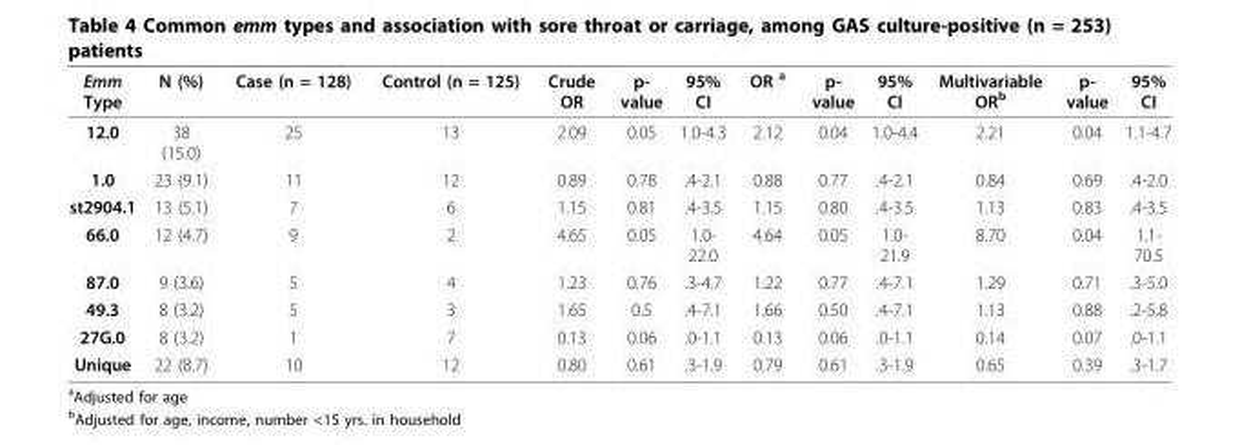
<table><thead><tr><td>Emm Type</td><td>N (%)</td><td>Case (n = 128)</td><td>Control (n = 125)</td><td>Crude OR</td><td>p- value</td><td>95% CI</td><td>OR <sup>a</sup></td><td>p- value</td><td>95% CI</td><td>Multivariable OR<sup>b</sup></td><td>p- value</td><td>95% CI</td></tr></thead><tbody><tr><td>12.0</td><td>38 (15.0)</td><td>25</td><td>13</td><td>2.09</td><td>0.05</td><td>1.0-4.3</td><td>2.12</td><td>0.04</td><td>1.0-4.4</td><td>2.21</td><td>0.04</td><td>1.1-4.7</td></tr><tr><td>1.0</td><td>23 (9.1)</td><td>11</td><td>12</td><td>0.89</td><td>0.78</td><td>.4-2.1</td><td>0.88</td><td>0.77</td><td>.4-2.1</td><td>0.84</td><td>0.69</td><td>.4-2.0</td></tr><tr><td>st2904.1</td><td>13 (5.1)</td><td>7</td><td>6</td><td>1.15</td><td>0.81</td><td>.4-3.5</td><td>1.15</td><td>0.80</td><td>.4-3.5</td><td>1.13</td><td>0.83</td><td>.4-3.5</td></tr><tr><td>66.0</td><td>12 (4.7)</td><td>9</td><td>2</td><td>4.65</td><td>0.05</td><td>1.0- 22.0</td><td>4.64</td><td>0.05</td><td>1.0- 21.9</td><td>8.70</td><td>0.04</td><td>1.1- 70.5</td></tr><tr><td>87.0</td><td>9 (3.6)</td><td>5</td><td>4</td><td>1.23</td><td>0.76</td><td>.3-4.7</td><td>1.22</td><td>0.77</td><td>.4-7.1</td><td>1.29</td><td>0.71</td><td>.3-5.0</td></tr><tr><td>49.3</td><td>8 (3.2)</td><td>5</td><td>3</td><td>1.65</td><td>0.5</td><td>.4-7.1</td><td>1.66</td><td>0.50</td><td>.4-7.1</td><td>1.13</td><td>0.88</td><td>.2-5.8</td></tr><tr><td>27G.0</td><td>8 (3.2)</td><td>1</td><td>7</td><td>0.13</td><td>0.06</td><td>.0-1.1</td><td>0.13</td><td>0.06</td><td>.0-1.1</td><td>0.14</td><td>0.07</td><td>.0-1.1</td></tr><tr><td>Unique</td><td>22 (8.7)</td><td>10</td><td>12</td><td>0.80</td><td>0.61</td><td>.3-1.9</td><td>0.79</td><td>0.61</td><td>.3-1.9</td><td>0.65</td><td>0.39</td><td>.3-1.7</td></tr></tbody></table>